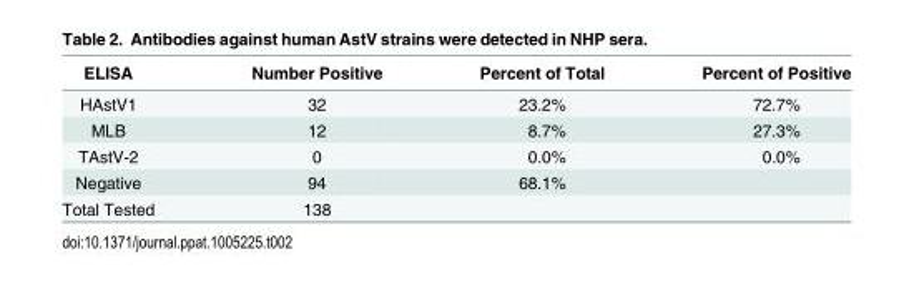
<table><thead><tr><td>ELISA</td><td>Number Positive</td><td>Percent of Total</td><td>Percent of Positive</td></tr></thead><tbody><tr><td>HAstV1</td><td>32</td><td>23.2%</td><td>72.7%</td></tr><tr><td>MLB</td><td>12</td><td>8.7%</td><td>27.3%</td></tr><tr><td>TAstV-2</td><td>0</td><td>0.0%</td><td>0.0%</td></tr><tr><td>Negative</td><td>94</td><td>68.1%</td><td></td></tr><tr><td>Total Tested</td><td>138</td><td></td><td></td></tr></tbody></table>